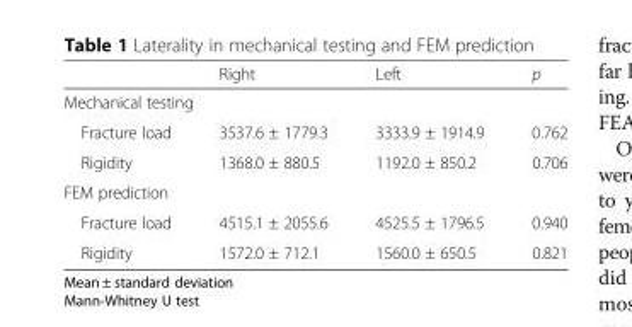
<table><thead><tr><td></td><td>Right</td><td>Left</td><td>p</td></tr></thead><tbody><tr><td colspan="4">Mechanical testing</td></tr><tr><td>Fracture load</td><td>3537.6 ± 1779.3</td><td>3333.9 ± 1914.9</td><td>0.762</td></tr><tr><td>Rigidity</td><td>1368.0 ± 880.5</td><td>1192.0 ± 850.2</td><td>0.706</td></tr><tr><td colspan="4">FEM prediction</td></tr><tr><td>Fracture load</td><td>4515.1 ± 2055.6</td><td>4525.5 ± 1796.5</td><td>0.940</td></tr><tr><td>Rigidity</td><td>1572.0 ± 712.1</td><td>1560.0 ± 650.5</td><td>0.821</td></tr></tbody></table>